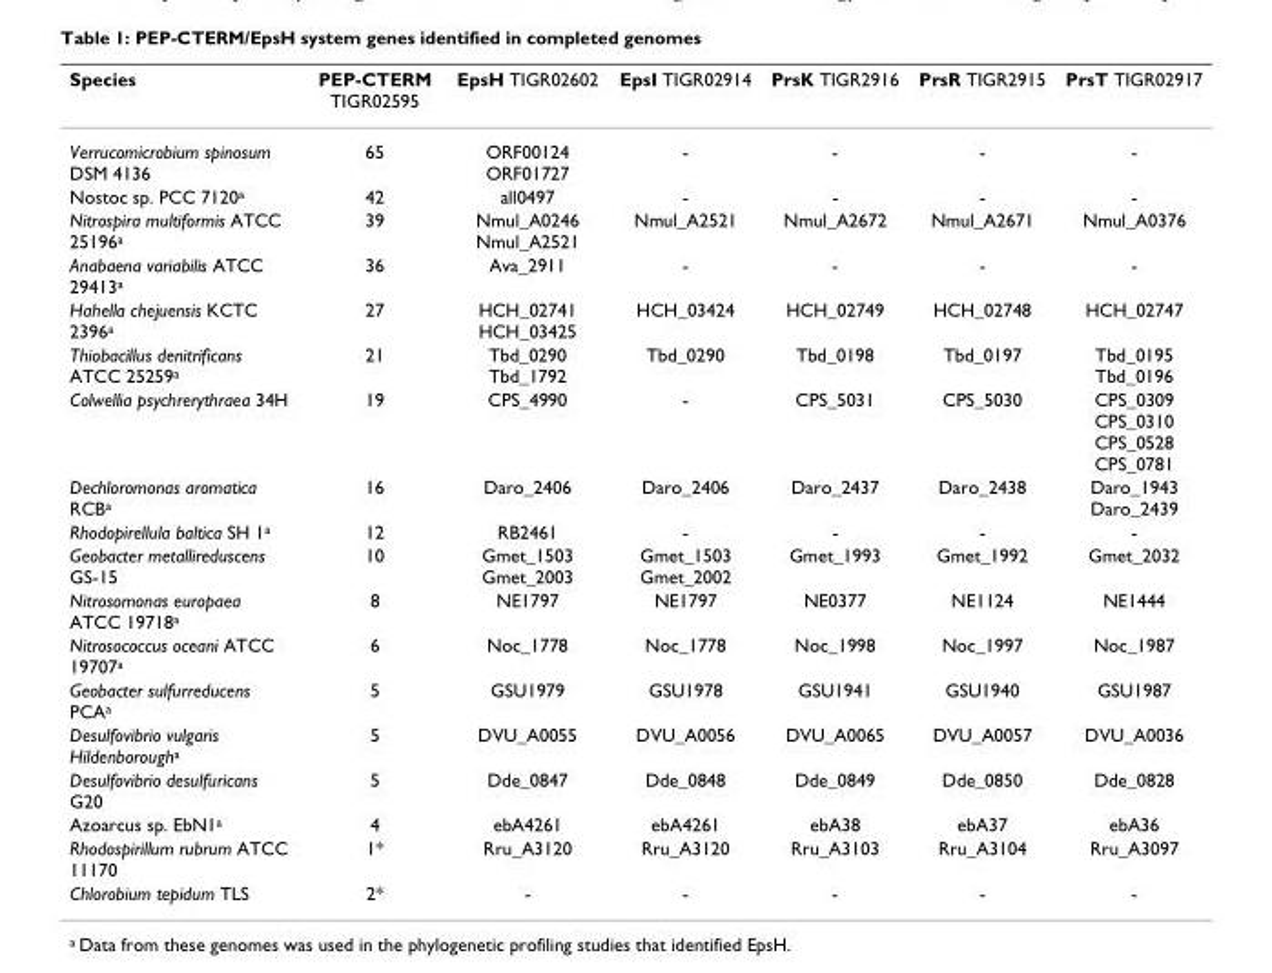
<table><thead><tr><td>Species</td><td>PEP-CTERM TIGR02595</td><td>EpsH TIGR02602</td><td>EpsI TIGR02914</td><td>PrsK TIGR2916</td><td>PrsR TIGR2915</td><td>PrsT TIGR02917</td></tr></thead><tbody><tr><td>Verrucomicrobium spinosum DSM 4136</td><td>65</td><td>ORF00124 ORF01727</td><td>-</td><td>-</td><td>-</td><td>-</td></tr><tr><td>Nostoc sp. PCC 7120a</td><td>42</td><td>all0497</td><td>-</td><td>-</td><td>-</td><td>-</td></tr><tr><td>Nitrospira multiformis ATCC 25196a</td><td>39</td><td>Nmul_A0246 Nmul_A2521</td><td>Nmul_A2521</td><td>Nmul_A2672</td><td>Nmul_A2671</td><td>Nmul_A0376</td></tr><tr><td>Anabaena variabilis ATCC 29413a</td><td>36</td><td>Ava_2911</td><td>-</td><td>-</td><td>-</td><td>-</td></tr><tr><td>Hahella chejuensis KCTC 2396a</td><td>27</td><td>HCH_02741 HCH_03425</td><td>HCH_03424</td><td>HCH_02749</td><td>HCH_02748</td><td>HCH_02747</td></tr><tr><td>Thiobacillus denitrificans ATCC 25259a</td><td>21</td><td>Tbd_0290 Tbd_1792</td><td>Tbd_0290</td><td>Tbd_0198</td><td>Tbd_0197</td><td>Tbd_0195 Tbd_0196</td></tr><tr><td>Colwellia psychrerythraea 34H</td><td>19</td><td>CPS_4990</td><td>-</td><td>CPS_5031</td><td>CPS_5030</td><td>CPS_0309 CPS_0310 CPS_0528 CPS_0781</td></tr><tr><td>Dechloromonas aromatica RCBa</td><td>16</td><td>Daro_2406</td><td>Daro_2406</td><td>Daro_2437</td><td>Daro_2438</td><td>Daro_1943 Daro_2439</td></tr><tr><td>Rhodopirellula baltica SH 1a</td><td>12</td><td>RB2461</td><td>-</td><td>-</td><td>-</td><td>-</td></tr><tr><td>Geobacter metallireduscens GS-15</td><td>10</td><td>Gmet_1503 Gmet_2003</td><td>Gmet_1503 Gmet_2002</td><td>Gmet_1993</td><td>Gmet_1992</td><td>Gmet_2032</td></tr><tr><td>Nitrosomonas europaea ATCC 19718a</td><td>8</td><td>NE1797</td><td>NE1797</td><td>NE0377</td><td>NE1124</td><td>NE1444</td></tr><tr><td>Nitrosococcus oceani ATCC 19707a</td><td>6</td><td>Noc_1778</td><td>Noc_1778</td><td>Noc_1998</td><td>Noc_1997</td><td>Noc_1987</td></tr><tr><td>Geobacter sulfurreducens PCAa</td><td>5</td><td>GSU1979</td><td>GSU1978</td><td>GSU1941</td><td>GSU1940</td><td>GSU1987</td></tr><tr><td>Desulfovibrio vulgaris Hildenborougha</td><td>5</td><td>DVU_A0055</td><td>DVU_A0056</td><td>DVU_A0065</td><td>DVU_A0057</td><td>DVU_A0036</td></tr><tr><td>Desulfovibrio desulfuricans G20</td><td>5</td><td>Dde_0847</td><td>Dde_0848</td><td>Dde_0849</td><td>Dde_0850</td><td>Dde_0828</td></tr><tr><td>Azoarcus sp. EbN1a</td><td>4</td><td>ebA4261</td><td>ebA4261</td><td>ebA38</td><td>ebA37</td><td>ebA36</td></tr><tr><td>Rhodospirillum rubrum ATCC 11170</td><td>1*</td><td>Rru_A3120</td><td>Rru_A3120</td><td>Rru_A3103</td><td>Rru_A3104</td><td>Rru_A3097</td></tr><tr><td>Chlorobium tepidum TLS</td><td>2*</td><td>-</td><td>-</td><td>-</td><td>-</td><td>-</td></tr></tbody></table>